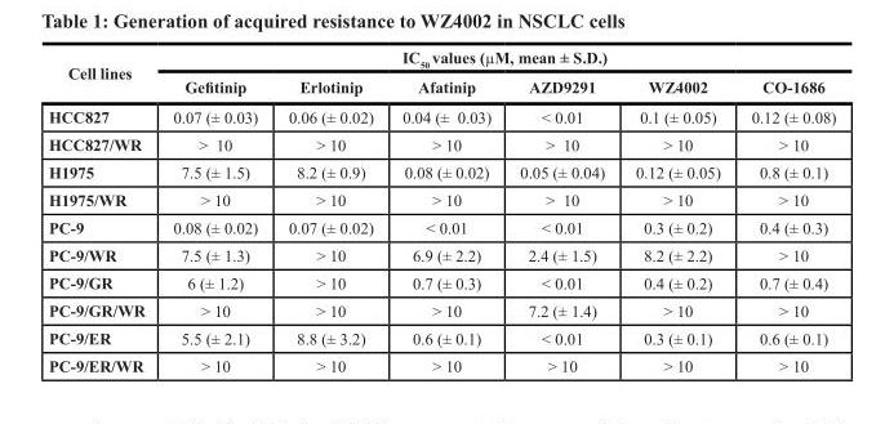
<table><thead><tr><td rowspan="2">Cell lines</td><td colspan="6">IC<sub>50</sub> values (µM, mean ± S.D.)</td></tr><tr><td>Gefitinip</td><td>Erlotinip</td><td>Afatinip</td><td>AZD9291</td><td>WZ4002</td><td>CO-1686</td></tr></thead><tbody><tr><td>HCC827</td><td>0.07 (± 0.03)</td><td>0.06 (± 0.02)</td><td>0.04 (± 0.03)</td><td>&lt; 0.01</td><td>0.1 (± 0.05)</td><td>0.12 (± 0.08)</td></tr><tr><td>HCC827/WR</td><td>&gt; 10</td><td>&gt; 10</td><td>&gt; 10</td><td>&gt; 10</td><td>&gt; 10</td><td>&gt; 10</td></tr><tr><td>H1975</td><td>7.5 (± 1.5)</td><td>8.2 (± 0.9)</td><td>0.08 (± 0.02)</td><td>0.05 (± 0.04)</td><td>0.12 (± 0.05)</td><td>0.8 (± 0.1)</td></tr><tr><td>H1975/WR</td><td>&gt; 10</td><td>&gt; 10</td><td>&gt; 10</td><td>&gt; 10</td><td>&gt; 10</td><td>&gt; 10</td></tr><tr><td>PC-9</td><td>0.08 (± 0.02)</td><td>0.07 (± 0.02)</td><td>&lt; 0.01</td><td>&lt; 0.01</td><td>0.3 (± 0.2)</td><td>0.4 (± 0.3)</td></tr><tr><td>PC-9/WR</td><td>7.5 (± 1.3)</td><td>&gt; 10</td><td>6.9 (± 2.2)</td><td>2.4 (± 1.5)</td><td>8.2 (± 2.2)</td><td>&gt; 10</td></tr><tr><td>PC-9/GR</td><td>6 (± 1.2)</td><td>&gt; 10</td><td>0.7 (± 0.3)</td><td>&lt; 0.01</td><td>0.4 (± 0.2)</td><td>0.7 (± 0.4)</td></tr><tr><td>PC-9/GR/WR</td><td>&gt; 10</td><td>&gt; 10</td><td>&gt; 10</td><td>7.2 (± 1.4)</td><td>&gt; 10</td><td>&gt; 10</td></tr><tr><td>PC-9/ER</td><td>5.5 (± 2.1)</td><td>8.8 (± 3.2)</td><td>0.6 (± 0.1)</td><td>&lt; 0.01</td><td>0.3 (± 0.1)</td><td>0.6 (± 0.1)</td></tr><tr><td>PC-9/ER/WR</td><td>&gt; 10</td><td>&gt; 10</td><td>&gt; 10</td><td>&gt; 10</td><td>&gt; 10</td><td>&gt; 10</td></tr></tbody></table>